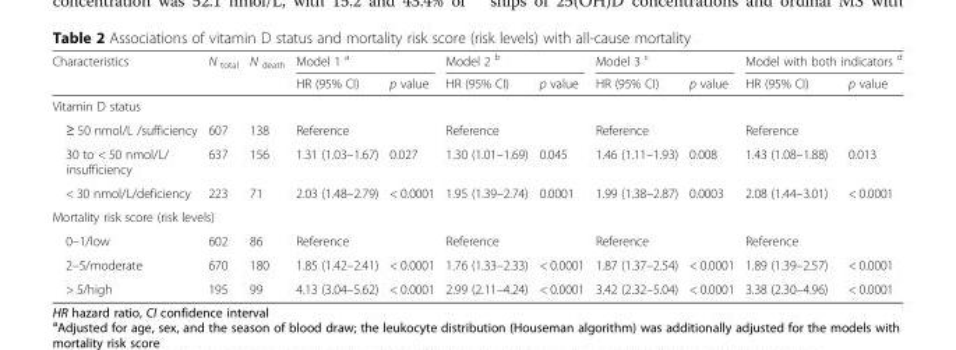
<table><thead><tr><td rowspan="2">Characteristics</td><td rowspan="2">N <sub>total</sub></td><td rowspan="2">N <sub>death</sub></td><td colspan="2">Model 1 <sup>a</sup></td><td colspan="2">Model 2 <sup>b</sup></td><td colspan="2">Model 3 <sup>c</sup></td><td colspan="2">Model with both indicators <sup>d</sup></td></tr><tr><td>HR (95% CI)</td><td>p value</td><td>HR (95% CI)</td><td>p value</td><td>HR (95% CI)</td><td>p value</td><td>HR (95% CI)</td><td>p value</td></tr></thead><tbody><tr><td colspan="11">Vitamin D status</td></tr><tr><td>≥ 50 nmol/L /sufficiency</td><td>607</td><td>138</td><td>Reference</td><td></td><td>Reference</td><td></td><td>Reference</td><td></td><td>Reference</td><td></td></tr><tr><td>30 to &lt; 50 nmol/L/ insufficiency</td><td>637</td><td>156</td><td>1.31 (1.03–1.67)</td><td>0.027</td><td>1.30 (1.01–1.69)</td><td>0.045</td><td>1.46 (1.11–1.93)</td><td>0.008</td><td>1.43 (1.08–1.88)</td><td>0.013</td></tr><tr><td>&lt; 30 nmol/L/deficiency</td><td>223</td><td>71</td><td>2.03 (1.48–2.79)</td><td>&lt; 0.0001</td><td>1.95 (1.39–2.74)</td><td>0.0001</td><td>1.99 (1.38–2.87)</td><td>0.0003</td><td>2.08 (1.44–3.01)</td><td>&lt; 0.0001</td></tr><tr><td colspan="11">Mortality risk score (risk levels)</td></tr><tr><td>0–1/low</td><td>602</td><td>86</td><td>Reference</td><td></td><td>Reference</td><td></td><td>Reference</td><td></td><td>Reference</td><td></td></tr><tr><td>2–5/moderate</td><td>670</td><td>180</td><td>1.85 (1.42–2.41)</td><td>&lt; 0.0001</td><td>1.76 (1.33–2.33)</td><td>&lt; 0.0001</td><td>1.87 (1.37–2.54)</td><td>&lt; 0.0001</td><td>1.89 (1.39–2.57)</td><td>&lt; 0.0001</td></tr><tr><td>&gt; 5/high</td><td>195</td><td>99</td><td>4.13 (3.04–5.62)</td><td>&lt; 0.0001</td><td>2.99 (2.11–4.24)</td><td>&lt; 0.0001</td><td>3.42 (2.32–5.04)</td><td>&lt; 0.0001</td><td>3.38 (2.30–4.96)</td><td>&lt; 0.0001</td></tr></tbody></table>